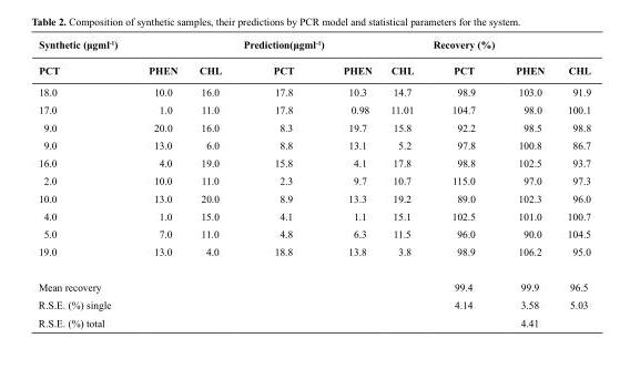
<table><thead><tr><td rowspan="2">Synthetic (μgml-1) PCT</td><td colspan="4">Prediction(μgml-1)</td><td colspan="4">Recovery (%)</td></tr><tr><td>PHEN</td><td>CHL</td><td>PCT</td><td>PHEN</td><td>CHL</td><td>PCT</td><td>PHEN</td><td>CHL</td></tr></thead><tbody><tr><td>18.0</td><td>10.0</td><td>16.0</td><td>17.8</td><td>10.3</td><td>14.7</td><td>98.9</td><td>103.0</td><td>91.9</td></tr><tr><td>17.0</td><td>1.0</td><td>11.0</td><td>17.8</td><td>0.98</td><td>11.01</td><td>104.7</td><td>98.0</td><td>100.1</td></tr><tr><td>9.0</td><td>20.0</td><td>16.0</td><td>8.3</td><td>19.7</td><td>15.8</td><td>92.2</td><td>98.5</td><td>98.8</td></tr><tr><td>9.0</td><td>13.0</td><td>6.0</td><td>8.8</td><td>13.1</td><td>5.2</td><td>97.8</td><td>100.8</td><td>86.7</td></tr><tr><td>16.0</td><td>4.0</td><td>19.0</td><td>15.8</td><td>4.1</td><td>17.8</td><td>98.8</td><td>102.5</td><td>93.7</td></tr><tr><td>2.0</td><td>10.0</td><td>11.0</td><td>2.3</td><td>9.7</td><td>10.7</td><td>115.0</td><td>97.0</td><td>97.3</td></tr><tr><td>10.0</td><td>13.0</td><td>20.0</td><td>8.9</td><td>13.3</td><td>19.2</td><td>89.0</td><td>102.3</td><td>96.0</td></tr><tr><td>4.0</td><td>1.0</td><td>15.0</td><td>4.1</td><td>1.1</td><td>15.1</td><td>102.5</td><td>101.0</td><td>100.7</td></tr><tr><td>5.0</td><td>7.0</td><td>11.0</td><td>4.8</td><td>6.3</td><td>11.5</td><td>96.0</td><td>90.0</td><td>104.5</td></tr><tr><td>19.0</td><td>13.0</td><td>4.0</td><td>18.8</td><td>13.8</td><td>3.8</td><td>98.9</td><td>106.2</td><td>95.0</td></tr><tr><td>Mean recovery</td><td></td><td></td><td></td><td></td><td></td><td>99.4</td><td>99.9</td><td>96.5</td></tr><tr><td>R.S.E. (%) single</td><td></td><td></td><td></td><td></td><td></td><td>4.14</td><td>3.58</td><td>5.03</td></tr><tr><td>R.S.E. (%) total</td><td></td><td></td><td></td><td></td><td></td><td></td><td>4.41</td><td></td></tr></tbody></table>